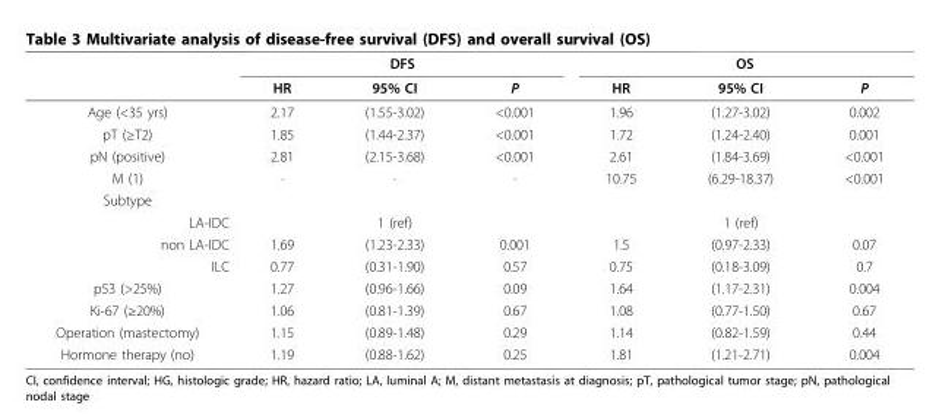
<table><thead><tr><td rowspan="2"></td><td colspan="3">DFS</td><td colspan="3">OS</td></tr><tr><td>HR</td><td>95% CI</td><td>P</td><td>HR</td><td>95% CI</td><td>P</td></tr></thead><tbody><tr><td>Age (&lt;35 yrs)</td><td>2.17</td><td>(1.55-3.02)</td><td>&lt;0.001</td><td>1.96</td><td>(1.27-3.02)</td><td>0.002</td></tr><tr><td>pT (≥T2)</td><td>1.85</td><td>(1.44-2.37)</td><td>&lt;0.001</td><td>1.72</td><td>(1.24-2.40)</td><td>0.001</td></tr><tr><td>pN (positive)</td><td>2.81</td><td>(2.15-3.68)</td><td>&lt;0.001</td><td>2.61</td><td>(1.84-3.69)</td><td>&lt;0.001</td></tr><tr><td>M (1)</td><td>·</td><td>·</td><td>·</td><td>10.75</td><td>(6.29-18.37)</td><td>&lt;0.001</td></tr><tr><td colspan="7">Subtype</td></tr><tr><td>LA-IDC</td><td></td><td>1 (ref)</td><td></td><td></td><td>1 (ref)</td><td></td></tr><tr><td>non LA-IDC</td><td>1.69</td><td>(1.23-2.33)</td><td>0.001</td><td>1.5</td><td>(0.97-2.33)</td><td>0.07</td></tr><tr><td>ILC</td><td>0.77</td><td>(0.31-1.90)</td><td>0.57</td><td>0.75</td><td>(0.18-3.09)</td><td>0.7</td></tr><tr><td>p53 (&gt;25%)</td><td>1.27</td><td>(0.96-1.66)</td><td>0.09</td><td>1.64</td><td>(1.17-2.31)</td><td>0.004</td></tr><tr><td>Ki-67 (≥20%)</td><td>1.06</td><td>(0.81-1.39)</td><td>0.67</td><td>1.08</td><td>(0.77-1.50)</td><td>0.67</td></tr><tr><td>Operation (mastectomy)</td><td>1.15</td><td>(0.89-1.48)</td><td>0.29</td><td>1.14</td><td>(0.82-1.59)</td><td>0.44</td></tr><tr><td>Hormone therapy (no)</td><td>1.19</td><td>(0.88-1.62)</td><td>0.25</td><td>1.81</td><td>(1.21-2.71)</td><td>0.004</td></tr></tbody></table>